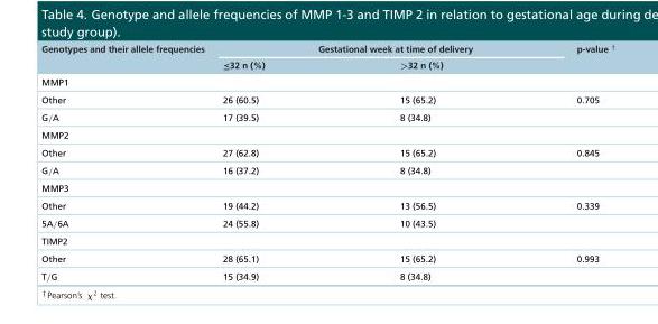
<table><thead><tr><td rowspan="2">Genotypes and their allele frequencies</td><td colspan="2">Gestational week at time of delivery</td><td rowspan="2">p-value <sup>†</sup></td></tr><tr><td>≤32 n (%)</td><td>&gt;32 n (%)</td></tr></thead><tbody><tr><td colspan="4">MMP1</td></tr><tr><td>Other</td><td>26 (60.5)</td><td>15 (65.2)</td><td>0.705</td></tr><tr><td>G/A</td><td>17 (39.5)</td><td>8 (34.8)</td><td></td></tr><tr><td colspan="4">MMP2</td></tr><tr><td>Other</td><td>27 (62.8)</td><td>15 (65.2)</td><td>0.845</td></tr><tr><td>G/A</td><td>16 (37.2)</td><td>8 (34.8)</td><td></td></tr><tr><td colspan="4">MMP3</td></tr><tr><td>Other</td><td>19 (44.2)</td><td>13 (56.5)</td><td>0.339</td></tr><tr><td>5A/6A</td><td>24 (55.8)</td><td>10 (43.5)</td><td></td></tr><tr><td colspan="4">TIMP2</td></tr><tr><td>Other</td><td>28 (65.1)</td><td>15 (65.2)</td><td>0.993</td></tr><tr><td>T/G</td><td>15 (34.9)</td><td>8 (34.8)</td><td></td></tr></tbody></table>